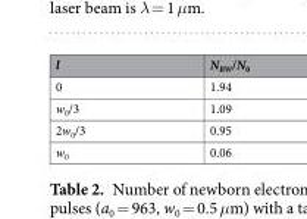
<table><thead><tr><td>l</td><td>N<sub>BW</sub>/N<sub>0</sub></td></tr></thead><tbody><tr><td>0</td><td>1.94</td></tr><tr><td>w<sub>0</sub>/3</td><td>1.09</td></tr><tr><td>2w<sub>0</sub>/3</td><td>0.95</td></tr><tr><td>w<sub>0</sub></td><td>0.06</td></tr></tbody></table>